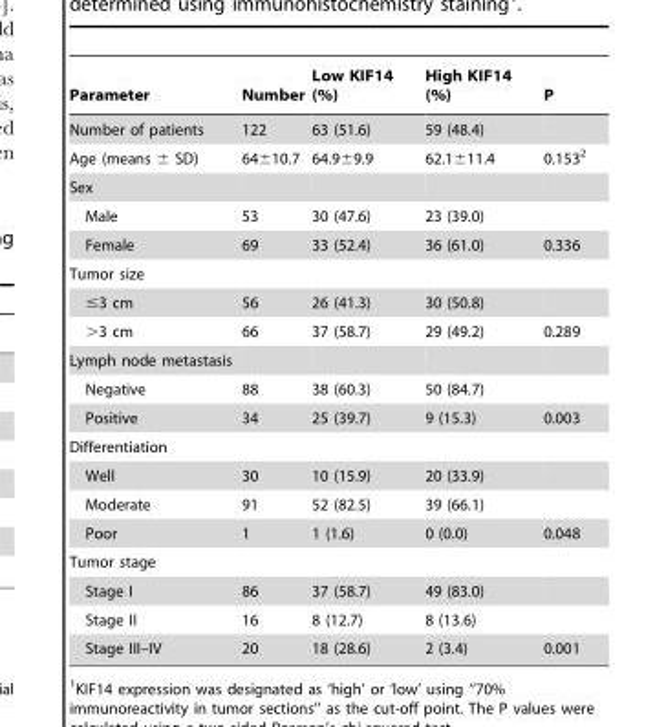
<table><thead><tr><td>Parameter</td><td>Number</td><td>Low KIF14 (%)</td><td>High KIF14 (%)</td><td>P</td></tr></thead><tbody><tr><td>Number of patients</td><td>122</td><td>63 (51.6)</td><td>59 (48.4)</td><td></td></tr><tr><td>Age (means ± SD)</td><td>64±10.7</td><td>64.9±9.9</td><td>62.1±11.4</td><td>0.153<sup>2</sup></td></tr><tr><td colspan="5">Sex</td></tr><tr><td>Male</td><td>53</td><td>30 (47.6)</td><td>23 (39.0)</td><td></td></tr><tr><td>Female</td><td>69</td><td>33 (52.4)</td><td>36 (61.0)</td><td>0.336</td></tr><tr><td colspan="5">Tumor size</td></tr><tr><td>≤3 cm</td><td>56</td><td>26 (41.3)</td><td>30 (50.8)</td><td></td></tr><tr><td>&gt;3 cm</td><td>66</td><td>37 (58.7)</td><td>29 (49.2)</td><td>0.289</td></tr><tr><td colspan="5">Lymph node metastasis</td></tr><tr><td>Negative</td><td>88</td><td>38 (60.3)</td><td>50 (84.7)</td><td></td></tr><tr><td>Positive</td><td>34</td><td>25 (39.7)</td><td>9 (15.3)</td><td>0.003</td></tr><tr><td colspan="5">Differentiation</td></tr><tr><td>Well</td><td>30</td><td>10 (15.9)</td><td>20 (33.9)</td><td></td></tr><tr><td>Moderate</td><td>91</td><td>52 (82.5)</td><td>39 (66.1)</td><td></td></tr><tr><td>Poor</td><td>1</td><td>1 (1.6)</td><td>0 (0.0)</td><td>0.048</td></tr><tr><td colspan="5">Tumor stage</td></tr><tr><td>Stage I</td><td>86</td><td>37 (58.7)</td><td>49 (83.0)</td><td></td></tr><tr><td>Stage II</td><td>16</td><td>8 (12.7)</td><td>8 (13.6)</td><td></td></tr><tr><td>Stage III–IV</td><td>20</td><td>18 (28.6)</td><td>2 (3.4)</td><td>0.001</td></tr></tbody></table>